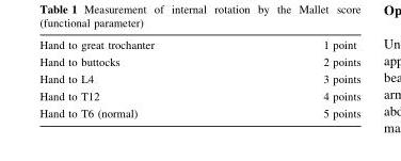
<table><tbody><tr><td>Hand to great trochanter</td><td>1 point</td></tr><tr><td>Hand to buttocks</td><td>2 points</td></tr><tr><td>Hand to L4</td><td>3 points</td></tr><tr><td>Hand to T12</td><td>4 points</td></tr><tr><td>Hand to T6 (normal)</td><td>5 points</td></tr></tbody></table>